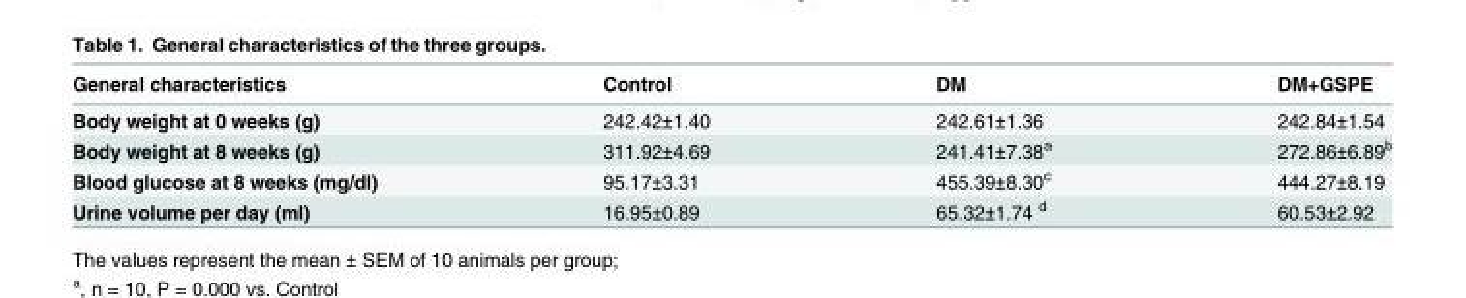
<table><thead><tr><td>General characteristics</td><td>Control</td><td>DM</td><td>DM+GSPE</td></tr></thead><tbody><tr><td>Body weight at 0 weeks (g)</td><td>242.42±1.40</td><td>242.61±1.36</td><td>242.84±1.54</td></tr><tr><td>Body weight at 8 weeks (g)</td><td>311.92±4.69</td><td>241.41±7.38<sup>a</sup></td><td>272.86±6.89<sup>b</sup></td></tr><tr><td>Blood glucose at 8 weeks (mg/dl)</td><td>95.17±3.31</td><td>455.39±8.30<sup>c</sup></td><td>444.27±8.19</td></tr><tr><td>Urine volume per day (ml)</td><td>16.95±0.89</td><td>65.32±1.74 <sup>d</sup></td><td>60.53±2.92</td></tr></tbody></table>